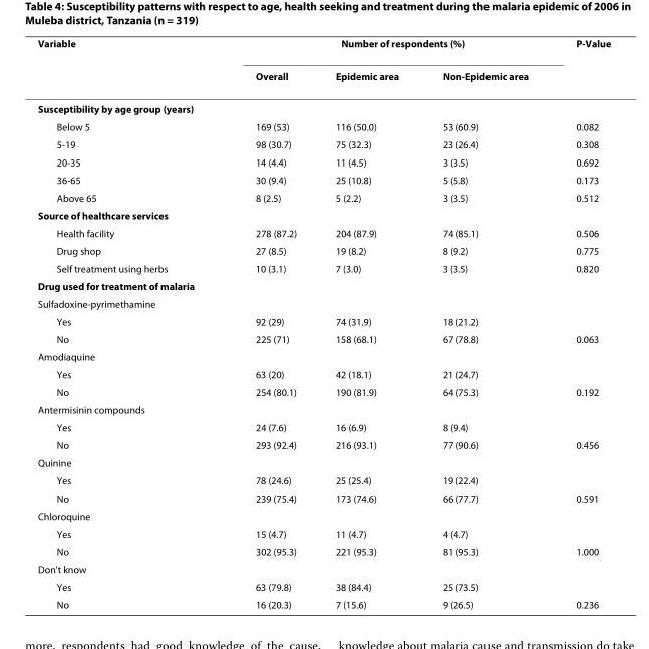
<table><thead><tr><td rowspan="2">Variable</td><td colspan="3">Number of respondents (%)</td><td rowspan="2">P-Value</td></tr><tr><td>Overall</td><td>Epidemic area</td><td>Non-Epidemic area</td></tr></thead><tbody><tr><td colspan="5">Susceptibility by age group (years)</td></tr><tr><td>Below 5</td><td>169 (53)</td><td>116 (50.0)</td><td>53 (60.9)</td><td>0.082</td></tr><tr><td>5-19</td><td>98 (30.7)</td><td>75 (32.3)</td><td>23 (26.4)</td><td>0.308</td></tr><tr><td>20-35</td><td>14 (4.4)</td><td>11 (4.5)</td><td>3 (3.5)</td><td>0.692</td></tr><tr><td>36-65</td><td>30 (9.4)</td><td>25 (10.8)</td><td>5 (5.8)</td><td>0.173</td></tr><tr><td>Above 65</td><td>8 (2.5)</td><td>5 (2.2)</td><td>3 (3.5)</td><td>0.512</td></tr><tr><td colspan="5">Source of healthcare services</td></tr><tr><td>Health facility</td><td>278 (87.2)</td><td>204 (87.9)</td><td>74 (85.1)</td><td>0.506</td></tr><tr><td>Drug shop</td><td>27 (8.5)</td><td>19 (8.2)</td><td>8 (9.2)</td><td>0.775</td></tr><tr><td>Self treatment using herbs</td><td>10 (3.1)</td><td>7 (3.0)</td><td>3 (3.5)</td><td>0.820</td></tr><tr><td colspan="5">Drug used for treatment of malaria</td></tr><tr><td colspan="5">Sulfadoxine-pyrimethamine</td></tr><tr><td>Yes</td><td>92 (29)</td><td>74 (31.9)</td><td>18 (21.2)</td><td></td></tr><tr><td>No</td><td>225 (71)</td><td>158 (68.1)</td><td>67 (78.8)</td><td>0.063</td></tr><tr><td colspan="5">Amodiaquine</td></tr><tr><td>Yes</td><td>63 (20)</td><td>42 (18.1)</td><td>21 (24.7)</td><td></td></tr><tr><td>No</td><td>254 (80.1)</td><td>190 (81.9)</td><td>64 (75.3)</td><td>0.192</td></tr><tr><td colspan="5">Antermisinin compounds</td></tr><tr><td>Yes</td><td>24 (7.6)</td><td>16 (6.9)</td><td>8 (9.4)</td><td></td></tr><tr><td>No</td><td>293 (92.4)</td><td>216 (93.1)</td><td>77 (90.6)</td><td>0.456</td></tr><tr><td colspan="5">Quinine</td></tr><tr><td>Yes</td><td>78 (24.6)</td><td>25 (25.4)</td><td>19 (22.4)</td><td></td></tr><tr><td>No</td><td>239 (75.4)</td><td>173 (74.6)</td><td>66 (77.7)</td><td>0.591</td></tr><tr><td colspan="5">Chloroquine</td></tr><tr><td>Yes</td><td>15 (4.7)</td><td>11 (4.7)</td><td>4 (4.7)</td><td></td></tr><tr><td>No</td><td>302 (95.3)</td><td>221 (95.3)</td><td>81 (95.3)</td><td>1.000</td></tr><tr><td colspan="5">Don&#x27;t know</td></tr><tr><td>Yes</td><td>63 (79.8)</td><td>38 (84.4)</td><td>25 (73.5)</td><td></td></tr><tr><td>No</td><td>16 (20.3)</td><td>7 (15.6)</td><td>9 (26.5)</td><td>0.236</td></tr></tbody></table>